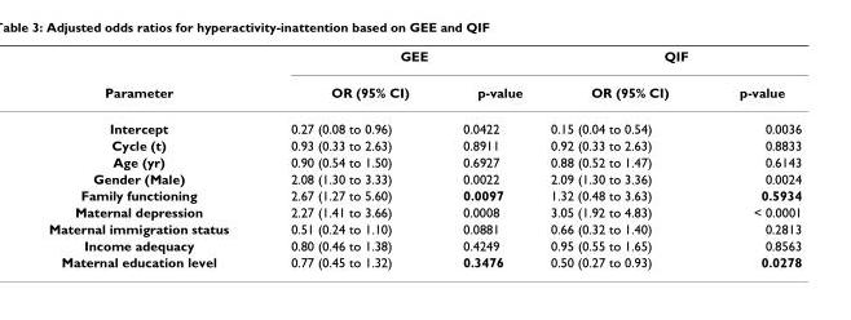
<table><thead><tr><td rowspan="2">Parameter</td><td colspan="2">GEE</td><td colspan="2">QIF</td></tr><tr><td>OR (95% CI)</td><td>p-value</td><td>OR (95% CI)</td><td>p-value</td></tr></thead><tbody><tr><td>Intercept</td><td>0.27 (0.08 to 0.96)</td><td>0.0422</td><td>0.15 (0.04 to 0.54)</td><td>0.0036</td></tr><tr><td>Cycle (t)</td><td>0.93 (0.33 to 2.63)</td><td>0.8911</td><td>0.92 (0.33 to 2.63)</td><td>0.8833</td></tr><tr><td>Age (yr)</td><td>0.90 (0.54 to 1.50)</td><td>0.6927</td><td>0.88 (0.52 to 1.47)</td><td>0.6143</td></tr><tr><td>Gender (Male)</td><td>2.08 (1.30 to 3.33)</td><td>0.0022</td><td>2.09 (1.30 to 3.36)</td><td>0.0024</td></tr><tr><td>Family functioning</td><td>2.67 (1.27 to 5.60)</td><td>0.0097</td><td>1.32 (0.48 to 3.63)</td><td>0.5934</td></tr><tr><td>Maternal depression</td><td>2.27 (1.41 to 3.66)</td><td>0.0008</td><td>3.05 (1.92 to 4.83)</td><td>&lt; 0.0001</td></tr><tr><td>Maternal immigration status</td><td>0.51 (0.24 to 1.10)</td><td>0.0881</td><td>0.66 (0.32 to 1.40)</td><td>0.2813</td></tr><tr><td>Income adequacy</td><td>0.80 (0.46 to 1.38)</td><td>0.4249</td><td>0.95 (0.55 to 1.65)</td><td>0.8563</td></tr><tr><td>Maternal education level</td><td>0.77 (0.45 to 1.32)</td><td>0.3476</td><td>0.50 (0.27 to 0.93)</td><td>0.0278</td></tr></tbody></table>